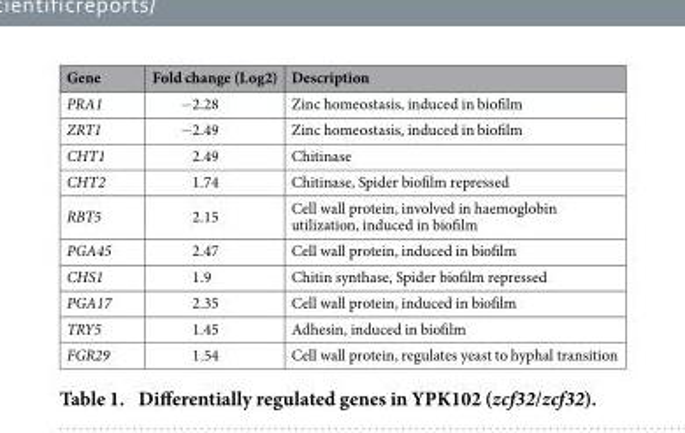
<table><thead><tr><td>Gene</td><td>Fold change (Log2)</td><td>Description</td></tr></thead><tbody><tr><td>PRA1</td><td>−2.28</td><td>Zinc homeostasis, induced in biofilm</td></tr><tr><td>ZRT1</td><td>−2.49</td><td>Zinc homeostasis, induced in biofilm</td></tr><tr><td>CHT1</td><td>2.49</td><td>Chitinase</td></tr><tr><td>CHT2</td><td>1.74</td><td>Chitinase, Spider biofilm repressed</td></tr><tr><td>RBT5</td><td>2.15</td><td>Cell wall protein, involved in haemoglobin utilization, induced in biofilm</td></tr><tr><td>PGA45</td><td>2.47</td><td>Cell wall protein, induced in biofilm</td></tr><tr><td>CHS1</td><td>1.9</td><td>Chitin synthase, Spider biofilm repressed</td></tr><tr><td>PGA17</td><td>2.35</td><td>Cell wall protein, induced in biofilm</td></tr><tr><td>TRY5</td><td>1.45</td><td>Adhesin, induced in biofilm</td></tr><tr><td>FGR29</td><td>1.54</td><td>Cell wall protein, regulates yeast to hyphal transition</td></tr></tbody></table>